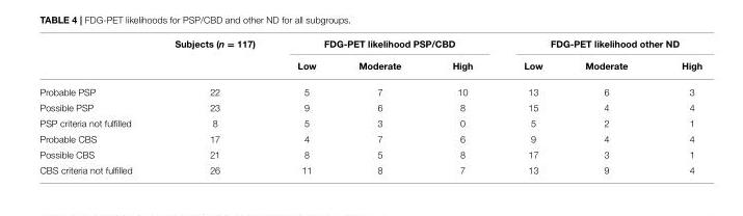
<table><thead><tr><td rowspan="2"></td><td rowspan="2">Subjects (n = 117)</td><td colspan="3">FDG-PET likelihood PSP/CBD</td><td colspan="3">FDG-PET likelihood other ND</td></tr><tr><td>Low</td><td>Moderate</td><td>High</td><td>Low</td><td>Moderate</td><td>High</td></tr></thead><tbody><tr><td>Probable PSP</td><td>22</td><td>5</td><td>7</td><td>10</td><td>13</td><td>6</td><td>3</td></tr><tr><td>Possible PSP</td><td>23</td><td>9</td><td>6</td><td>8</td><td>15</td><td>4</td><td>4</td></tr><tr><td>PSP criteria not fulfilled</td><td>8</td><td>5</td><td>3</td><td>0</td><td>5</td><td>2</td><td>1</td></tr><tr><td>Probable CBS</td><td>17</td><td>4</td><td>7</td><td>6</td><td>9</td><td>4</td><td>4</td></tr><tr><td>Possible CBS</td><td>21</td><td>8</td><td>5</td><td>8</td><td>17</td><td>3</td><td>1</td></tr><tr><td>CBS criteria not fulfilled</td><td>26</td><td>11</td><td>8</td><td>7</td><td>13</td><td>9</td><td>4</td></tr></tbody></table>